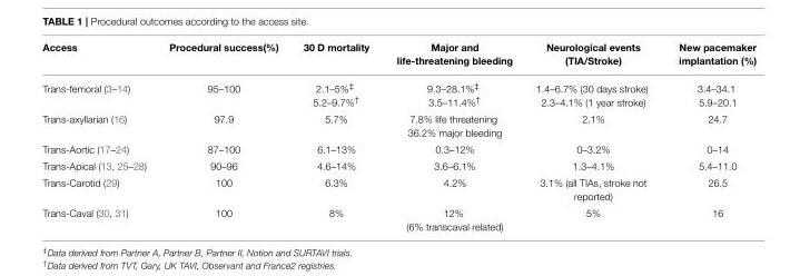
<table><thead><tr><td>Access</td><td>Procedural success(%)</td><td>30 D mortality</td><td>Major and life-threatening bleeding</td><td>Neurological events (TIA/Stroke)</td><td>New pacemaker implantation (%)</td></tr></thead><tbody><tr><td>Trans-femoral (3–14)</td><td>95–100</td><td>2.1–5%<sup>‡</sup> 5.2–9.7%<sup>†</sup></td><td>9.3–28.1%<sup>‡</sup> 3.5–11.4%<sup>†</sup></td><td>1.4–6.7% (30 days stroke) 2.3–4.1% (1 year stroke)</td><td>3.4–34.1 5.9–20.1</td></tr><tr><td>Trans-axyllarian (16)</td><td>97.9</td><td>5.7%</td><td>7.8% life threatening 36.2% major bleeding</td><td>2.1%</td><td>24.7</td></tr><tr><td>Trans-Aortic (17–24)</td><td>87–100</td><td>6.1–13%</td><td>0.3–12%</td><td>0–3.2%</td><td>0–14</td></tr><tr><td>Trans-Apical (13, 25–28)</td><td>90–96</td><td>4.6–14%</td><td>3.6–6.1%</td><td>1.3–4.1%</td><td>5.4–11.0</td></tr><tr><td>Trans-Carotid (29)</td><td>100</td><td>6.3%</td><td>4.2%</td><td>3.1% (all TIAs, stroke not reported)</td><td>26.5</td></tr><tr><td>Trans-Caval (30, 31)</td><td>100</td><td>8%</td><td>12% (6% transcaval related)</td><td>5%</td><td>16</td></tr></tbody></table>